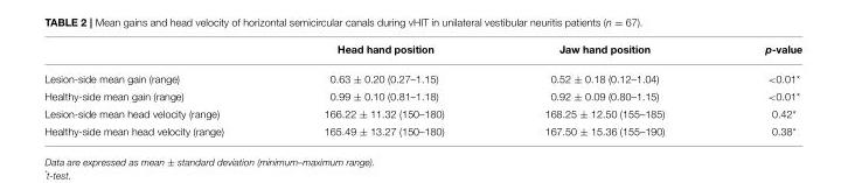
<table><thead><tr><td></td><td>Head hand position</td><td>Jaw hand position</td><td>p-value</td></tr></thead><tbody><tr><td>Lesion-side mean gain (range)</td><td>0.63 ± 0.20 (0.27–1.15)</td><td>0.52 ± 0.18 (0.12–1.04)</td><td>&lt;0.01*</td></tr><tr><td>Healthy-side mean gain (range)</td><td>0.99 ± 0.10 (0.81–1.18)</td><td>0.92 ± 0.09 (0.80–1.15)</td><td>&lt;0.01*</td></tr><tr><td>Lesion-side mean head velocity (range)</td><td>166.22 ± 11.32 (150–180)</td><td>168.25 ± 12.50 (155–185)</td><td>0.42*</td></tr><tr><td>Healthy-side mean head velocity (range)</td><td>165.49 ± 13.27 (150–180)</td><td>167.50 ± 15.36 (155–190)</td><td>0.38*</td></tr></tbody></table>